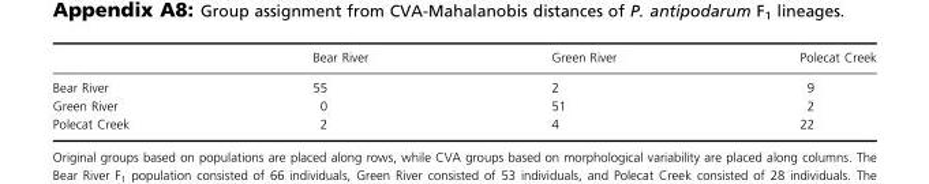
<table><thead><tr><td></td><td>Bear River</td><td>Green River</td><td>Polecat Creek</td></tr></thead><tbody><tr><td>Bear River</td><td>55</td><td>2</td><td>9</td></tr><tr><td>Green River</td><td>0</td><td>51</td><td>2</td></tr><tr><td>Polecat Creek</td><td>2</td><td>4</td><td>22</td></tr></tbody></table>